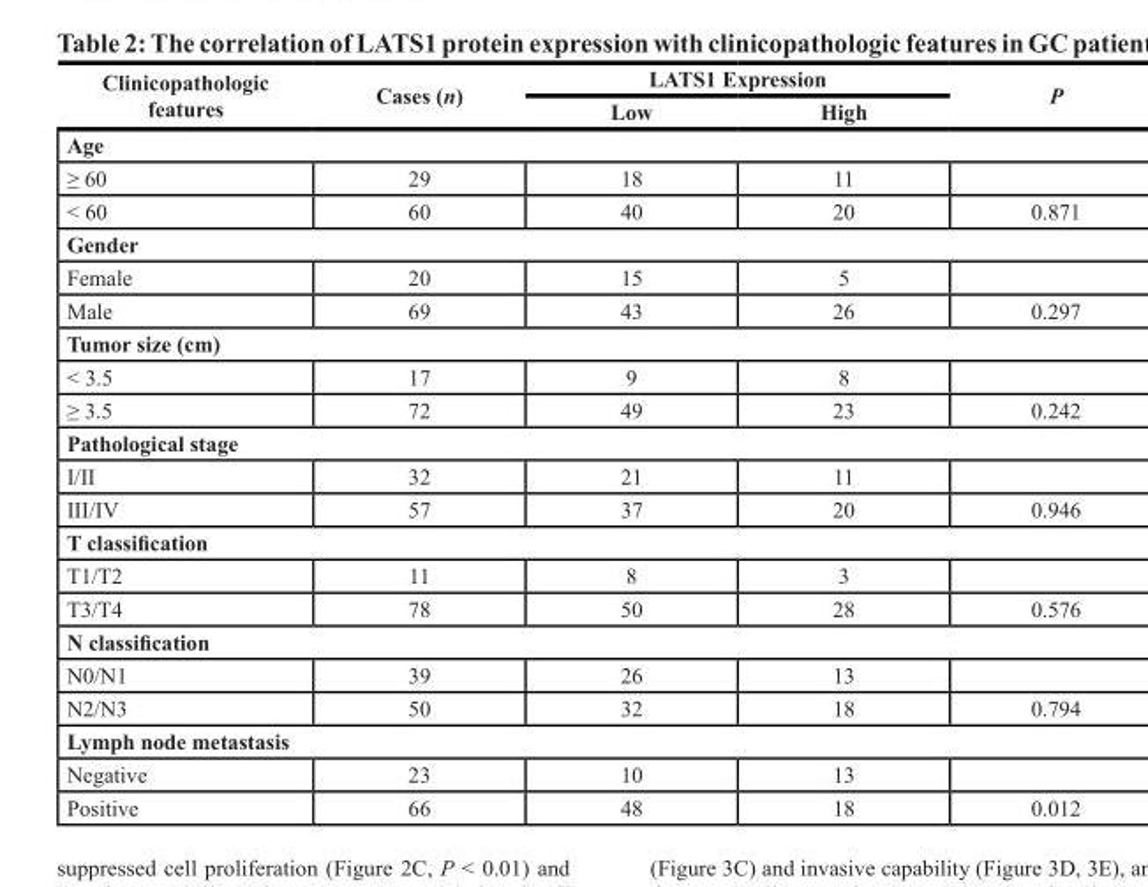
<table><thead><tr><td rowspan="2">Clinicopathologic features</td><td rowspan="2">Cases (n)</td><td colspan="2">LATS1 Expression</td><td rowspan="2">P</td></tr><tr><td>Low</td><td>High</td></tr></thead><tbody><tr><td colspan="5">Age</td></tr><tr><td>≥ 60</td><td>29</td><td>18</td><td>11</td><td></td></tr><tr><td>&lt; 60</td><td>60</td><td>40</td><td>20</td><td>0.871</td></tr><tr><td colspan="5">Gender</td></tr><tr><td>Female</td><td>20</td><td>15</td><td>5</td><td></td></tr><tr><td>Male</td><td>69</td><td>43</td><td>26</td><td>0.297</td></tr><tr><td colspan="5">Tumor size (cm)</td></tr><tr><td>&lt; 3.5</td><td>17</td><td>9</td><td>8</td><td></td></tr><tr><td>≥ 3.5</td><td>72</td><td>49</td><td>23</td><td>0.242</td></tr><tr><td colspan="5">Pathological stage</td></tr><tr><td>I/II</td><td>32</td><td>21</td><td>11</td><td></td></tr><tr><td>III/IV</td><td>57</td><td>37</td><td>20</td><td>0.946</td></tr><tr><td colspan="5">T classification</td></tr><tr><td>T1/T2</td><td>11</td><td>8</td><td>3</td><td></td></tr><tr><td>T3/T4</td><td>78</td><td>50</td><td>28</td><td>0.576</td></tr><tr><td colspan="5">N classification</td></tr><tr><td>N0/N1</td><td>39</td><td>26</td><td>13</td><td></td></tr><tr><td>N2/N3</td><td>50</td><td>32</td><td>18</td><td>0.794</td></tr><tr><td colspan="5">Lymph node metastasis</td></tr><tr><td>Negative</td><td>23</td><td>10</td><td>13</td><td></td></tr><tr><td>Positive</td><td>66</td><td>48</td><td>18</td><td>0.012</td></tr></tbody></table>